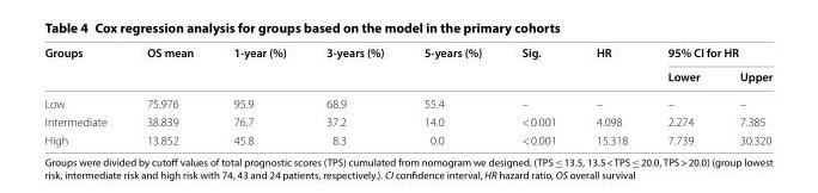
<table><thead><tr><td rowspan="2">Groups</td><td rowspan="2">OS mean</td><td rowspan="2">1‑year (%)</td><td rowspan="2">3‑years (%)</td><td rowspan="2">5‑years (%)</td><td rowspan="2">Sig.</td><td rowspan="2">HR</td><td colspan="2">95% CI for HR</td></tr><tr><td>Lower</td><td>Upper</td></tr></thead><tbody><tr><td>Low</td><td>75.976</td><td>95.9</td><td>68.9</td><td>55.4</td><td>–</td><td>–</td><td>–</td><td>–</td></tr><tr><td>Intermediate</td><td>38.839</td><td>76.7</td><td>37.2</td><td>14.0</td><td>&lt; 0.001</td><td>4.098</td><td>2.274</td><td>7.385</td></tr><tr><td>High</td><td>13.852</td><td>45.8</td><td>8.3</td><td>0.0</td><td>&lt; 0.001</td><td>15.318</td><td>7.739</td><td>30.320</td></tr></tbody></table>